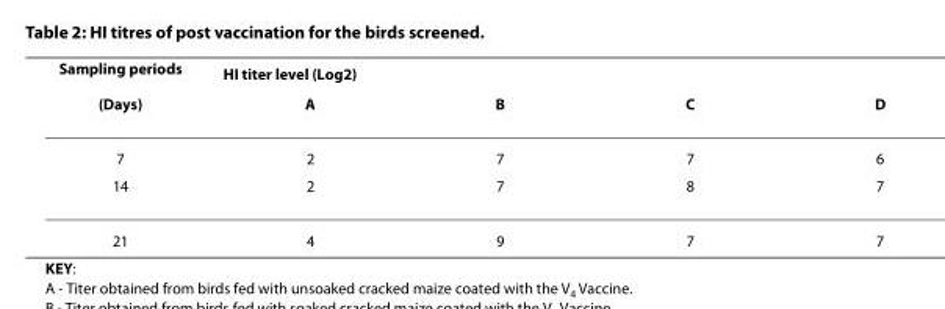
<table><thead><tr><td rowspan="2">Sampling periods (Days)</td><td colspan="4">HI titer level (Log<sub>2</sub>)</td></tr><tr><td>A</td><td>B</td><td>C</td><td>D</td></tr></thead><tbody><tr><td>7</td><td>2</td><td>7</td><td>7</td><td>6</td></tr><tr><td>14</td><td>2</td><td>7</td><td>8</td><td>7</td></tr><tr><td>21</td><td>4</td><td>9</td><td>7</td><td>7</td></tr></tbody></table>